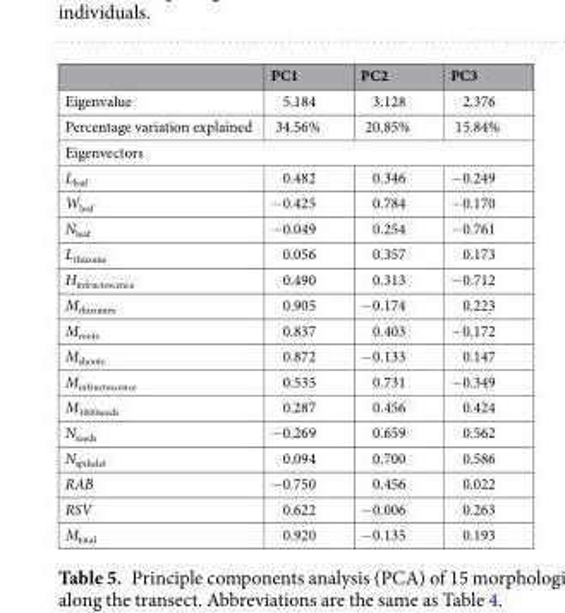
<table><thead><tr><td></td><td>PC1</td><td>PC2</td><td>PC3</td></tr></thead><tbody><tr><td>Eigenvalue</td><td>5.184</td><td>3.128</td><td>2.376</td></tr><tr><td>Percentage variation explained</td><td>34.56%</td><td>20.85%</td><td>15.84%</td></tr><tr><td colspan="4">Eigenvectors</td></tr><tr><td>L<sub>leaf</sub></td><td>0.482</td><td>0.346</td><td>−0.249</td></tr><tr><td>W<sub>leaf</sub></td><td>−0.425</td><td>0.784</td><td>−0.170</td></tr><tr><td>N<sub>leaf</sub></td><td>−0.049</td><td>0.254</td><td>−0.761</td></tr><tr><td>L<sub>rhizome</sub></td><td>0.056</td><td>0.357</td><td>0.173</td></tr><tr><td>H<sub>infructescence</sub></td><td>0.490</td><td>0.313</td><td>−0.712</td></tr><tr><td>M<sub>rhizomes</sub></td><td>0.905</td><td>−0.174</td><td>0.223</td></tr><tr><td>M<sub>roots</sub></td><td>0.837</td><td>0.403</td><td>−0.172</td></tr><tr><td>M<sub>shoots</sub></td><td>0.872</td><td>−0.133</td><td>0.147</td></tr><tr><td>M<sub>infructescence</sub></td><td>0.535</td><td>0.731</td><td>−0.349</td></tr><tr><td>M<sub>1000seeds</sub></td><td>0.287</td><td>0.456</td><td>0.424</td></tr><tr><td>N<sub>seeds</sub></td><td>−0.269</td><td>0.659</td><td>0.562</td></tr><tr><td>N<sub>spikelet</sub></td><td>0.094</td><td>0.700</td><td>0.586</td></tr><tr><td>RAB</td><td>−0.750</td><td>0.456</td><td>0.022</td></tr><tr><td>RSV</td><td>0.622</td><td>−0.006</td><td>0.263</td></tr><tr><td>M<sub>total</sub></td><td>0.920</td><td>−0.135</td><td>0.193</td></tr></tbody></table>